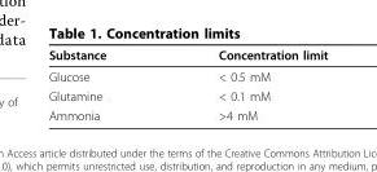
<table><thead><tr><td>Substance</td><td>Concentration limit</td></tr></thead><tbody><tr><td>Glucose</td><td>&lt; 0.5 mM</td></tr><tr><td>Glutamine</td><td>&lt; 0.1 mM</td></tr><tr><td>Ammonia</td><td>&gt;4 mM</td></tr></tbody></table>